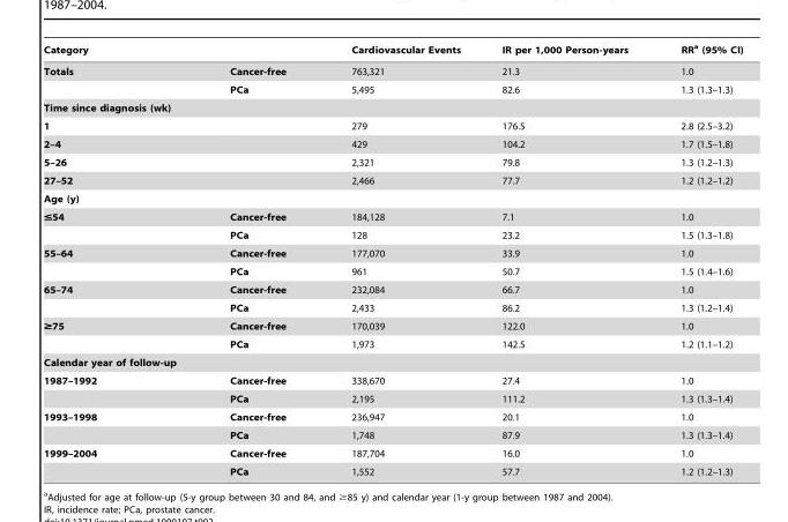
<table><thead><tr><td colspan="2">Category</td><td rowspan="2">Cardiovascular Events 763,321</td><td rowspan="2">IR per 1,000 Person-years 21.3</td><td rowspan="2">RR<sup>a</sup> (95% CI) 1.0</td></tr><tr><td>Totals</td><td>Cancer-free</td></tr></thead><tbody><tr><td></td><td>PCa</td><td>5,495</td><td>82.6</td><td>1.3 (1.3–1.3)</td></tr><tr><td colspan="5">Time since diagnosis (wk)</td></tr><tr><td>1</td><td></td><td>279</td><td>176.5</td><td>2.8 (2.5–3.2)</td></tr><tr><td>2–4</td><td></td><td>429</td><td>104.2</td><td>1.7 (1.5–1.8)</td></tr><tr><td>5–26</td><td></td><td>2,321</td><td>79.8</td><td>1.3 (1.2–1.3)</td></tr><tr><td>27–52</td><td></td><td>2,466</td><td>77.7</td><td>1.2 (1.2–1.2)</td></tr><tr><td colspan="5">Age (y)</td></tr><tr><td rowspan="2">≤54</td><td>Cancer-free</td><td>184,128</td><td>7.1</td><td>1.0</td></tr><tr><td>PCa</td><td>128</td><td>23.2</td><td>1.5 (1.3–1.8)</td></tr><tr><td rowspan="2">55–64</td><td>Cancer-free</td><td>177,070</td><td>33.9</td><td>1.0</td></tr><tr><td>PCa</td><td>961</td><td>50.7</td><td>1.5 (1.4–1.6)</td></tr><tr><td rowspan="2">65–74</td><td>Cancer-free</td><td>232,084</td><td>66.7</td><td>1.0</td></tr><tr><td>PCa</td><td>2,433</td><td>86.2</td><td>1.3 (1.2–1.4)</td></tr><tr><td rowspan="2">≥75</td><td>Cancer-free</td><td>170,039</td><td>122.0</td><td>1.0</td></tr><tr><td>PCa</td><td>1,973</td><td>142.5</td><td>1.2 (1.1–1.2)</td></tr><tr><td colspan="5">Calendar year of follow-up</td></tr><tr><td rowspan="2">1987–1992</td><td>Cancer-free</td><td>338,670</td><td>27.4</td><td>1.0</td></tr><tr><td>PCa</td><td>2,195</td><td>111.2</td><td>1.3 (1.3–1.4)</td></tr><tr><td rowspan="2">1993–1998</td><td>Cancer-free</td><td>236,947</td><td>20.1</td><td>1.0</td></tr><tr><td>PCa</td><td>1,748</td><td>87.9</td><td>1.3 (1.3–1.4)</td></tr><tr><td rowspan="2">1999–2004</td><td>Cancer-free</td><td>187,704</td><td>16.0</td><td>1.0</td></tr><tr><td>PCa</td><td>1,552</td><td>57.7</td><td>1.2 (1.2–1.3)</td></tr></tbody></table>